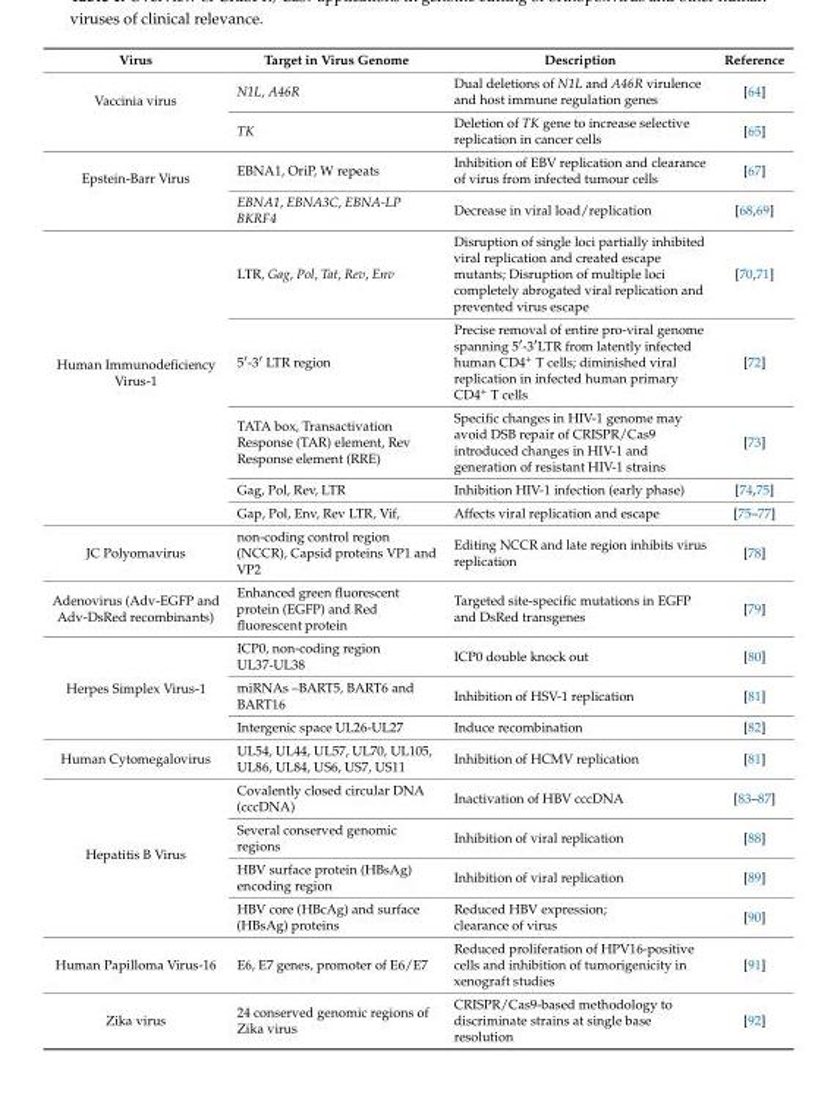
<table><thead><tr><td>Virus</td><td>Target in Virus Genome</td><td>Description</td><td>Reference</td></tr></thead><tbody><tr><td rowspan="2">Vaccinia virus</td><td>N1L, A46R</td><td>Dual deletions of N1L and A46R virulence and host immune regulation genes</td><td>[64]</td></tr><tr><td>TK</td><td>Deletion of TK gene to increase selective replication in cancer cells</td><td>[65]</td></tr><tr><td rowspan="2">Epstein-Barr Virus</td><td>EBNA1, OriP, W repeats</td><td>Inhibition of EBV replication and clearance of virus from infected tumour cells</td><td>[67]</td></tr><tr><td>EBNA1, EBNA3C, EBNA-LP BKRF4</td><td>Decrease in viral load/replication</td><td>[68,69]</td></tr><tr><td rowspan="5">Human Immunodeficiency Virus-1</td><td>LTR, Gag, Pol, Tat, Rev, Env</td><td>Disruption of single loci partially inhibited viral replication and created escape mutants; Disruption of multiple loci completely abrogated viral replication and prevented virus escape</td><td>[70,71]</td></tr><tr><td>5′-3′ LTR region</td><td>Precise removal of entire pro-viral genome spanning 5′-3′LTR from latently infected human CD4<sup>+</sup> T cells; diminished viral replication in infected human primary CD4<sup>+</sup> T cells</td><td>[72]</td></tr><tr><td>TATA box, Transactivation Response (TAR) element, Rev Response element (RRE)</td><td>Specific changes in HIV-1 genome may avoid DSB repair of CRISPR/Cas9 introduced changes in HIV-1 and generation of resistant HIV-1 strains</td><td>[73]</td></tr><tr><td>Gag, Pol, Rev, LTR</td><td>Inhibition HIV-1 infection (early phase)</td><td>[74,75]</td></tr><tr><td>Gap, Pol, Env, Rev LTR, Vif,</td><td>Affects viral replication and escape</td><td>[75–77]</td></tr><tr><td>JC Polyomavirus</td><td>non-coding control region (NCCR), Capsid proteins VP1 and VP2</td><td>Editing NCCR and late region inhibits virus replication</td><td>[78]</td></tr><tr><td>Adenovirus (Adv-EGFP and Adv-DsRed recombinants)</td><td>Enhanced green fluorescent protein (EGFP) and Red fluorescent protein</td><td>Targeted site-specific mutations in EGFP and DsRed transgenes</td><td>[79]</td></tr><tr><td rowspan="3">Herpes Simplex Virus-1</td><td>ICP0, non-coding region UL37-UL38</td><td>ICP0 double knock out</td><td>[80]</td></tr><tr><td>miRNAs –BART5, BART6 and BART16</td><td>Inhibition of HSV-1 replication</td><td>[81]</td></tr><tr><td>Intergenic space UL26-UL27</td><td>Induce recombination</td><td>[82]</td></tr><tr><td>Human Cytomegalovirus</td><td>UL54, UL44, UL57, UL70, UL105, UL86, UL84, US6, US7, US11</td><td>Inhibition of HCMV replication</td><td>[81]</td></tr><tr><td rowspan="4">Hepatitis B Virus</td><td>Covalently closed circular DNA (cccDNA)</td><td>Inactivation of HBV cccDNA</td><td>[83–87]</td></tr><tr><td>Several conserved genomic regions</td><td>Inhibition of viral replication</td><td>[88]</td></tr><tr><td>HBV surface protein (HBsAg) encoding region</td><td>Inhibition of viral replication</td><td>[89]</td></tr><tr><td>HBV core (HBcAg) and surface (HBsAg) proteins</td><td>Reduced HBV expression; clearance of virus</td><td>[90]</td></tr><tr><td>Human Papilloma Virus-16</td><td>E6, E7 genes, promoter of E6/E7</td><td>Reduced proliferation of HPV16-positive cells and inhibition of tumorigenicity in xenograft studies</td><td>[91]</td></tr><tr><td>Zika virus</td><td>24 conserved genomic regions of Zika virus</td><td>CRISPR/Cas9-based methodology to discriminate strains at single base resolution</td><td>[92]</td></tr></tbody></table>